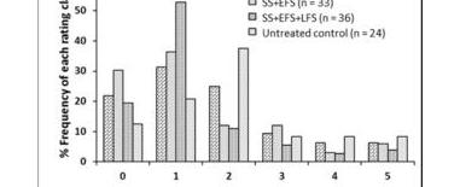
<table><thead><tr><td>Application Timing</td><td>Plants Row<sup>−1</sup></td><td>Pods Plant<sup>−1</sup></td><td>Yield t·ha<sup>−1</sup></td></tr></thead><tbody><tr><td>SS</td><td>48 b</td><td>153 bc</td><td>2.64 a</td></tr><tr><td>SS + EFS</td><td>51 ab</td><td>177 ab</td><td>2.68 a</td></tr><tr><td>SS + EFS+ LFS</td><td>54 a</td><td>207 a</td><td>2.69 a</td></tr><tr><td>Untreated control</td><td>37 c</td><td>128 c</td><td>2.03 b</td></tr><tr><td>SE</td><td>5</td><td>33</td><td>0.54</td></tr></tbody></table>